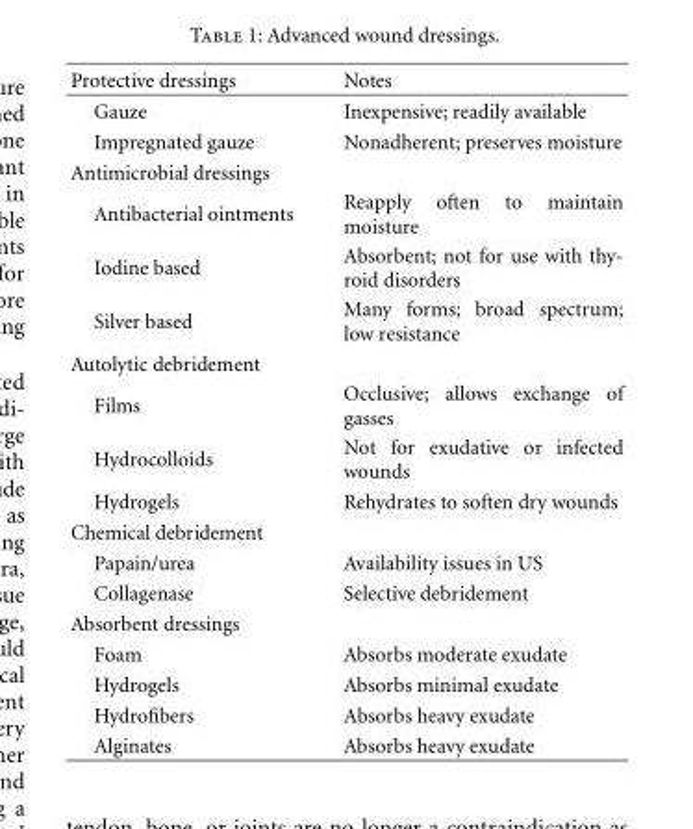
<table><thead><tr><td>Protective dressings</td><td>Notes</td></tr></thead><tbody><tr><td>Gauze</td><td>Inexpensive; readily available</td></tr><tr><td>Impregnated gauze</td><td>Nonadherent; preserves moisture</td></tr><tr><td colspan="2">Antimicrobial dressings</td></tr><tr><td>Antibacterial ointments</td><td>Reapply often to maintain moisture</td></tr><tr><td>Iodine based</td><td>Absorbent; not for use with thy- roid disorders</td></tr><tr><td>Silver based</td><td>Many forms; broad spectrum; low resistance</td></tr><tr><td colspan="2">Autolytic debridement</td></tr><tr><td>Films</td><td>Occlusive; allows exchange of gasses</td></tr><tr><td>Hydrocolloids</td><td>Not for exudative or infected wounds</td></tr><tr><td>Hydrogels</td><td>Rehydrates to soften dry wounds</td></tr><tr><td colspan="2">Chemical debridement</td></tr><tr><td>Papain/urea</td><td>Availability issues in US</td></tr><tr><td>Collagenase</td><td>Selective debridement</td></tr><tr><td colspan="2">Absorbent dressings</td></tr><tr><td>Foam</td><td>Absorbs moderate exudate</td></tr><tr><td>Hydrogels</td><td>Absorbs minimal exudate</td></tr><tr><td>Hydrofibers</td><td>Absorbs heavy exudate</td></tr><tr><td>Alginates</td><td>Absorbs heavy exudate</td></tr></tbody></table>